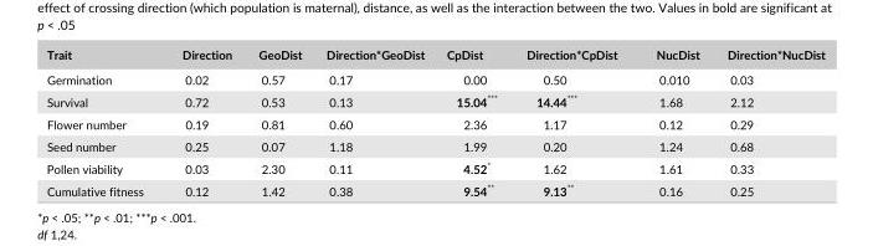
<table><thead><tr><td>Trait</td><td>Direction</td><td>GeoDist</td><td>Direction*GeoDist</td><td>CpDist</td><td>Direction*CpDist</td><td>NucDist</td><td>Direction*NucDist</td></tr></thead><tbody><tr><td>Germination</td><td>0.02</td><td>0.57</td><td>0.17</td><td>0.00</td><td>0.50</td><td>0.010</td><td>0.03</td></tr><tr><td>Survival</td><td>0.72</td><td>0.53</td><td>0.13</td><td>15.04***</td><td>14.44***</td><td>1.68</td><td>2.12</td></tr><tr><td>Flower number</td><td>0.19</td><td>0.81</td><td>0.60</td><td>2.36</td><td>1.17</td><td>0.12</td><td>0.29</td></tr><tr><td>Seed number</td><td>0.25</td><td>0.07</td><td>1.18</td><td>1.99</td><td>0.20</td><td>1.24</td><td>0.68</td></tr><tr><td>Pollen viability</td><td>0.03</td><td>2.30</td><td>0.11</td><td>4.52*</td><td>1.62</td><td>1.61</td><td>0.33</td></tr><tr><td>Cumulative fitness</td><td>0.12</td><td>1.42</td><td>0.38</td><td>9.54**</td><td>9.13**</td><td>0.16</td><td>0.25</td></tr></tbody></table>